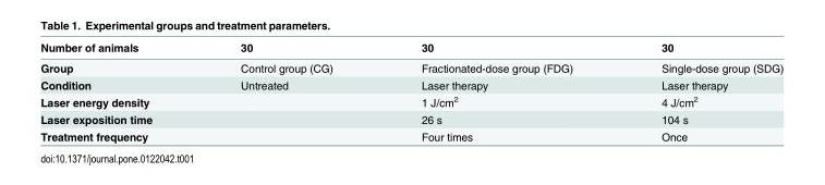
<table><thead><tr><td>Number of animals</td><td>30</td><td>30</td><td>30</td></tr></thead><tbody><tr><td>Group</td><td>Control group (CG)</td><td>Fractionated-dose group (FDG)</td><td>Single-dose group (SDG)</td></tr><tr><td>Condition</td><td>Untreated</td><td>Laser therapy</td><td>Laser therapy</td></tr><tr><td>Laser energy density</td><td></td><td>1 J/cm<sup>2</sup></td><td>4 J/cm<sup>2</sup></td></tr><tr><td>Laser exposition time</td><td></td><td>26 s</td><td>104 s</td></tr><tr><td>Treatment frequency</td><td></td><td>Four times</td><td>Once</td></tr></tbody></table>